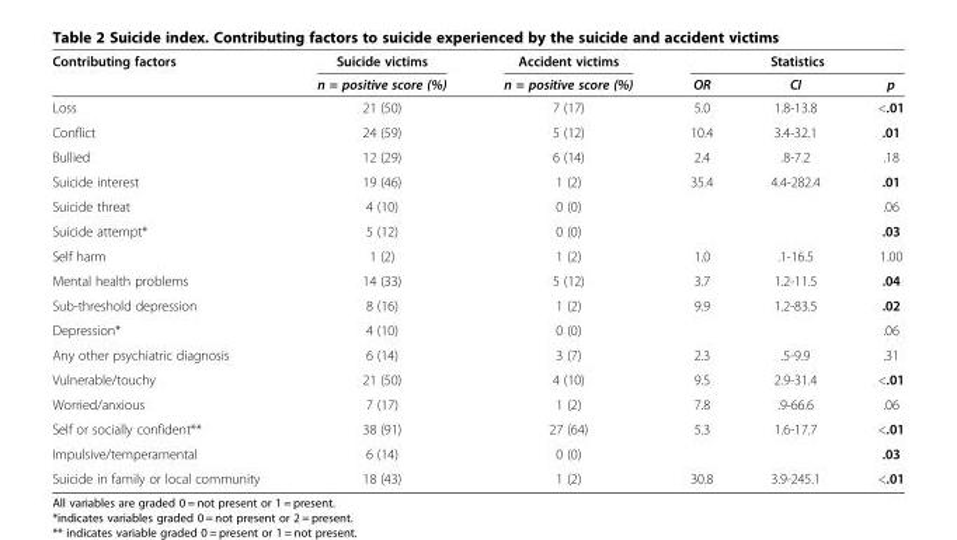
<table><thead><tr><td rowspan="2">Contributing factors</td><td rowspan="2">Suicide victims n = positive score (%)</td><td rowspan="2">Accident victims n = positive score (%)</td><td colspan="3">Statistics</td></tr><tr><td>OR</td><td>CI</td><td>p</td></tr></thead><tbody><tr><td>Loss</td><td>21 (50)</td><td>7 (17)</td><td>5.0</td><td>1.8-13.8</td><td>&lt;.01</td></tr><tr><td>Conflict</td><td>24 (59)</td><td>5 (12)</td><td>10.4</td><td>3.4-32.1</td><td>.01</td></tr><tr><td>Bullied</td><td>12 (29)</td><td>6 (14)</td><td>2.4</td><td>.8-7.2</td><td>.18</td></tr><tr><td>Suicide interest</td><td>19 (46)</td><td>1 (2)</td><td>35.4</td><td>4.4-282.4</td><td>.01</td></tr><tr><td>Suicide threat</td><td>4 (10)</td><td>0 (0)</td><td></td><td></td><td>.06</td></tr><tr><td>Suicide attempt*</td><td>5 (12)</td><td>0 (0)</td><td></td><td></td><td>.03</td></tr><tr><td>Self harm</td><td>1 (2)</td><td>1 (2)</td><td>1.0</td><td>.1-16.5</td><td>1.00</td></tr><tr><td>Mental health problems</td><td>14 (33)</td><td>5 (12)</td><td>3.7</td><td>1.2-11.5</td><td>.04</td></tr><tr><td>Sub-threshold depression</td><td>8 (16)</td><td>1 (2)</td><td>9.9</td><td>1.2-83.5</td><td>.02</td></tr><tr><td>Depression*</td><td>4 (10)</td><td>0 (0)</td><td></td><td></td><td>.06</td></tr><tr><td>Any other psychiatric diagnosis</td><td>6 (14)</td><td>3 (7)</td><td>2.3</td><td>.5-9.9</td><td>.31</td></tr><tr><td>Vulnerable/touchy</td><td>21 (50)</td><td>4 (10)</td><td>9.5</td><td>2.9-31.4</td><td>&lt;.01</td></tr><tr><td>Worried/anxious</td><td>7 (17)</td><td>1 (2)</td><td>7.8</td><td>.9-66.6</td><td>.06</td></tr><tr><td>Self or socially confident**</td><td>38 (91)</td><td>27 (64)</td><td>5.3</td><td>1.6-17.7</td><td>&lt;.01</td></tr><tr><td>Impulsive/temperamental</td><td>6 (14)</td><td>0 (0)</td><td></td><td></td><td>.03</td></tr><tr><td>Suicide in family or local community</td><td>18 (43)</td><td>1 (2)</td><td>30.8</td><td>3.9-245.1</td><td>&lt;.01</td></tr></tbody></table>